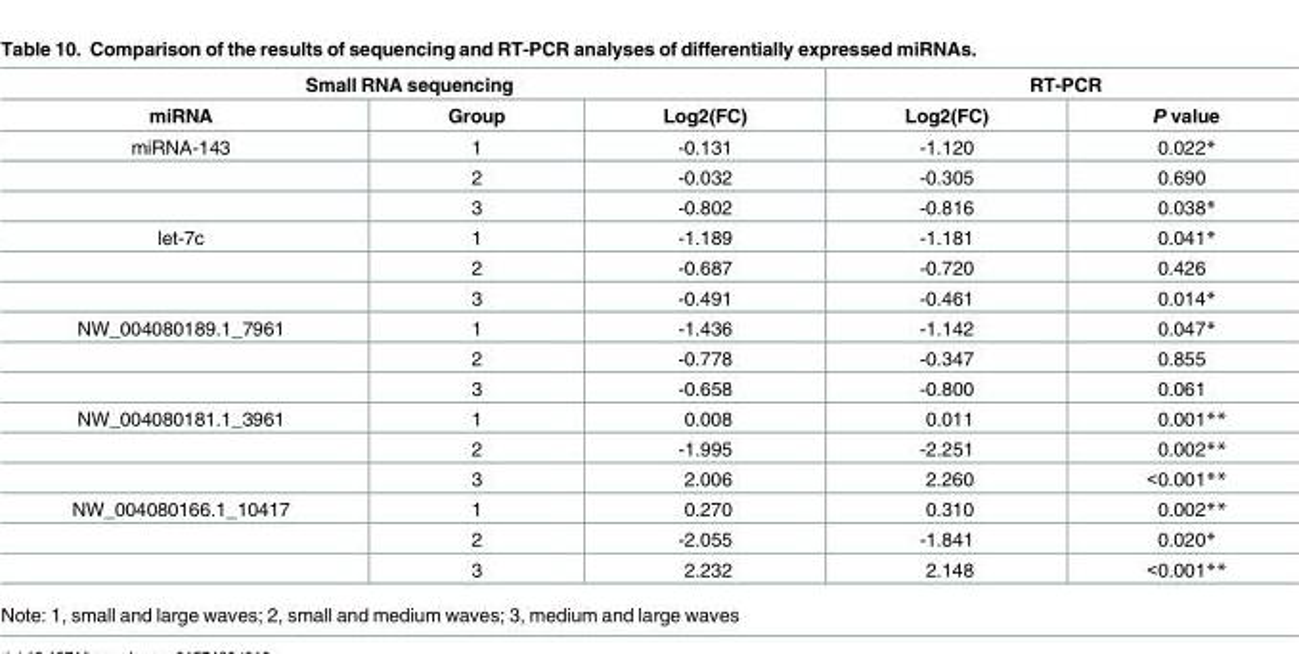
<table><thead><tr><td colspan="3">Small RNA sequencing</td><td colspan="2">RT-PCR</td></tr><tr><td>miRNA</td><td>Group</td><td>Log2(FC)</td><td>Log2(FC)</td><td>P value</td></tr></thead><tbody><tr><td rowspan="3">miRNA-143</td><td>1</td><td>-0.131</td><td>-1.120</td><td>0.022*</td></tr><tr><td>2</td><td>-0.032</td><td>-0.305</td><td>0.690</td></tr><tr><td>3</td><td>-0.802</td><td>-0.816</td><td>0.038*</td></tr><tr><td rowspan="3">let-7c</td><td>1</td><td>-1.189</td><td>-1.181</td><td>0.041*</td></tr><tr><td>2</td><td>-0.687</td><td>-0.720</td><td>0.426</td></tr><tr><td>3</td><td>-0.491</td><td>-0.461</td><td>0.014*</td></tr><tr><td rowspan="3">NW_004080189.1_7961</td><td>1</td><td>-1.436</td><td>-1.142</td><td>0.047*</td></tr><tr><td>2</td><td>-0.778</td><td>-0.347</td><td>0.855</td></tr><tr><td>3</td><td>-0.658</td><td>-0.800</td><td>0.061</td></tr><tr><td rowspan="3">NW_004080181.1_3961</td><td>1</td><td>0.008</td><td>0.011</td><td>0.001**</td></tr><tr><td>2</td><td>-1.995</td><td>-2.251</td><td>0.002**</td></tr><tr><td>3</td><td>2.006</td><td>2.260</td><td>&lt;0.001**</td></tr><tr><td rowspan="3">NW_004080166.1_10417</td><td>1</td><td>0.270</td><td>0.310</td><td>0.002**</td></tr><tr><td>2</td><td>-2.055</td><td>-1.841</td><td>0.020*</td></tr><tr><td>3</td><td>2.232</td><td>2.148</td><td>&lt;0.001**</td></tr></tbody></table>